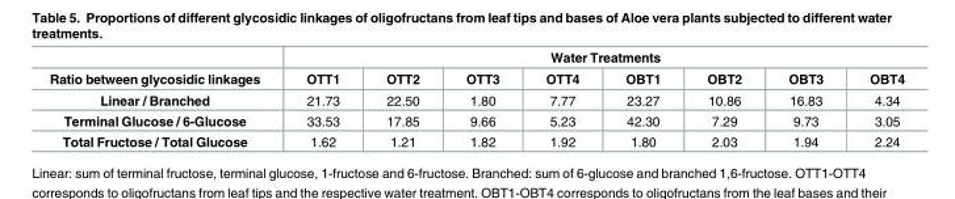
<table><thead><tr><td rowspan="2">Ratio between glycosidic linkages</td><td colspan="8">Water Treatments</td></tr><tr><td>OTT1</td><td>OTT2</td><td>OTT3</td><td>OTT4</td><td>OBT1</td><td>OBT2</td><td>OBT3</td><td>OBT4</td></tr></thead><tbody><tr><td>Linear / Branched</td><td>21.73</td><td>22.50</td><td>1.80</td><td>7.77</td><td>23.27</td><td>10.86</td><td>16.83</td><td>4.34</td></tr><tr><td>Terminal Glucose / 6-Glucose</td><td>33.53</td><td>17.85</td><td>9.66</td><td>5.23</td><td>42.30</td><td>7.29</td><td>9.73</td><td>3.05</td></tr><tr><td>Total Fructose / Total Glucose</td><td>1.62</td><td>1.21</td><td>1.82</td><td>1.92</td><td>1.80</td><td>2.03</td><td>1.94</td><td>2.24</td></tr></tbody></table>